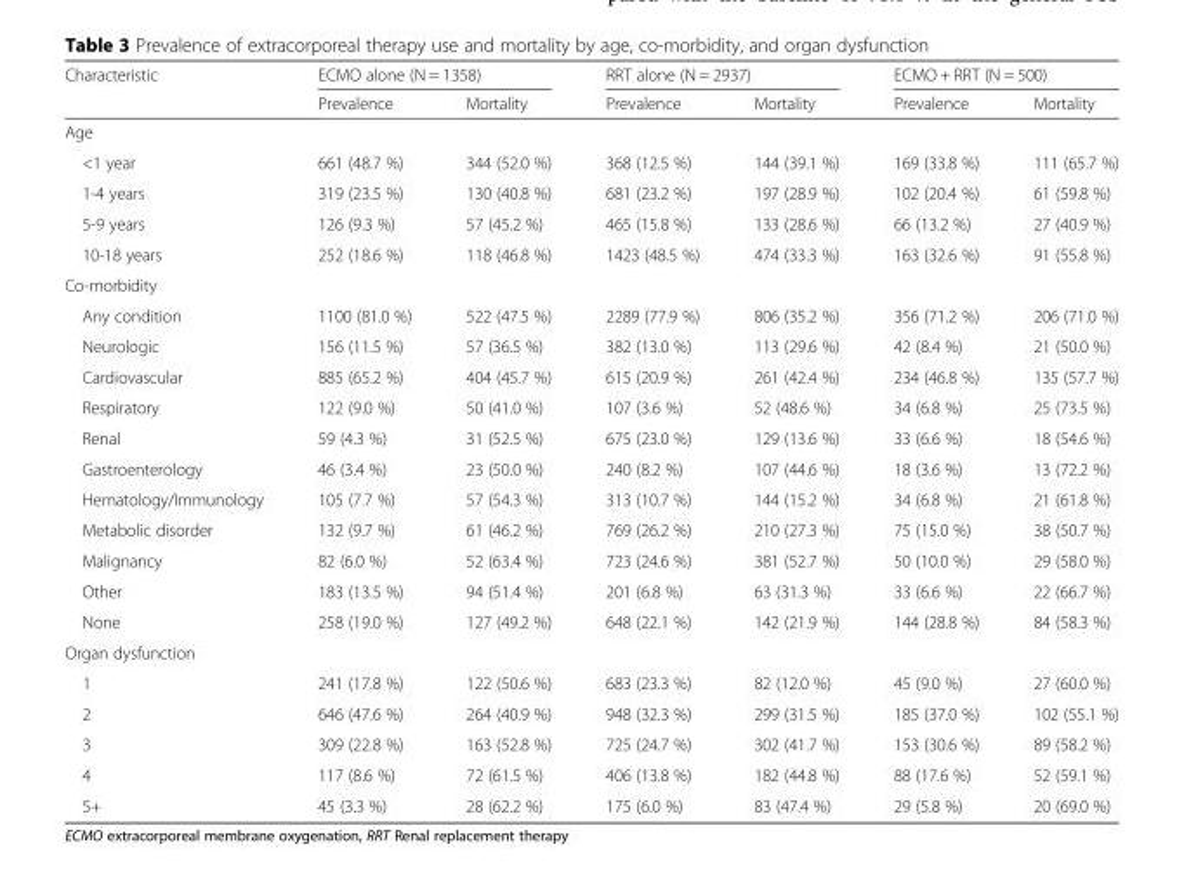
<table><thead><tr><td rowspan="2">Characteristic</td><td colspan="2">ECMO alone (N = 1358)</td><td colspan="2">RRT alone (N = 2937)</td><td colspan="2">ECMO + RRT (N = 500)</td></tr><tr><td>Prevalence</td><td>Mortality</td><td>Prevalence</td><td>Mortality</td><td>Prevalence</td><td>Mortality</td></tr></thead><tbody><tr><td colspan="7">Age</td></tr><tr><td>&lt;1 year</td><td>661 (48.7 %)</td><td>344 (52.0 %)</td><td>368 (12.5 %)</td><td>144 (39.1 %)</td><td>169 (33.8 %)</td><td>111 (65.7 %)</td></tr><tr><td>1-4 years</td><td>319 (23.5 %)</td><td>130 (40.8 %)</td><td>681 (23.2 %)</td><td>197 (28.9 %)</td><td>102 (20.4 %)</td><td>61 (59.8 %)</td></tr><tr><td>5-9 years</td><td>126 (9.3 %)</td><td>57 (45.2 %)</td><td>465 (15.8 %)</td><td>133 (28.6 %)</td><td>66 (13.2 %)</td><td>27 (40.9 %)</td></tr><tr><td>10-18 years</td><td>252 (18.6 %)</td><td>118 (46.8 %)</td><td>1423 (48.5 %)</td><td>474 (33.3 %)</td><td>163 (32.6 %)</td><td>91 (55.8 %)</td></tr><tr><td colspan="7">Co-morbidity</td></tr><tr><td>Any condition</td><td>1100 (81.0 %)</td><td>522 (47.5 %)</td><td>2289 (77.9 %)</td><td>806 (35.2 %)</td><td>356 (71.2 %)</td><td>206 (71.0 %)</td></tr><tr><td>Neurologic</td><td>156 (11.5 %)</td><td>57 (36.5 %)</td><td>382 (13.0 %)</td><td>113 (29.6 %)</td><td>42 (8.4 %)</td><td>21 (50.0 %)</td></tr><tr><td>Cardiovascular</td><td>885 (65.2 %)</td><td>404 (45.7 %)</td><td>615 (20.9 %)</td><td>261 (42.4 %)</td><td>234 (46.8 %)</td><td>135 (57.7 %)</td></tr><tr><td>Respiratory</td><td>122 (9.0 %)</td><td>50 (41.0 %)</td><td>107 (3.6 %)</td><td>52 (48.6 %)</td><td>34 (6.8 %)</td><td>25 (73.5 %)</td></tr><tr><td>Renal</td><td>59 (4.3 %)</td><td>31 (52.5 %)</td><td>675 (23.0 %)</td><td>129 (13.6 %)</td><td>33 (6.6 %)</td><td>18 (54.6 %)</td></tr><tr><td>Gastroenterology</td><td>46 (3.4 %)</td><td>23 (50.0 %)</td><td>240 (8.2 %)</td><td>107 (44.6 %)</td><td>18 (3.6 %)</td><td>13 (72.2 %)</td></tr><tr><td>Hematology/Immunology</td><td>105 (7.7 %)</td><td>57 (54.3 %)</td><td>313 (10.7 %)</td><td>144 (15.2 %)</td><td>34 (6.8 %)</td><td>21 (61.8 %)</td></tr><tr><td>Metabolic disorder</td><td>132 (9.7 %)</td><td>61 (46.2 %)</td><td>769 (26.2 %)</td><td>210 (27.3 %)</td><td>75 (15.0 %)</td><td>38 (50.7 %)</td></tr><tr><td>Malignancy</td><td>82 (6.0 %)</td><td>52 (63.4 %)</td><td>723 (24.6 %)</td><td>381 (52.7 %)</td><td>50 (10.0 %)</td><td>29 (58.0 %)</td></tr><tr><td>Other</td><td>183 (13.5 %)</td><td>94 (51.4 %)</td><td>201 (6.8 %)</td><td>63 (31.3 %)</td><td>33 (6.6 %)</td><td>22 (66.7 %)</td></tr><tr><td>None</td><td>258 (19.0 %)</td><td>127 (49.2 %)</td><td>648 (22.1 %)</td><td>142 (21.9 %)</td><td>144 (28.8 %)</td><td>84 (58.3 %)</td></tr><tr><td colspan="7">Organ dysfunction</td></tr><tr><td>1</td><td>241 (17.8 %)</td><td>122 (50.6 %)</td><td>683 (23.3 %)</td><td>82 (12.0 %)</td><td>45 (9.0 %)</td><td>27 (60.0 %)</td></tr><tr><td>2</td><td>646 (47.6 %)</td><td>264 (40.9 %)</td><td>948 (32.3 %)</td><td>299 (31.5 %)</td><td>185 (37.0 %)</td><td>102 (55.1 %)</td></tr><tr><td>3</td><td>309 (22.8 %)</td><td>163 (52.8 %)</td><td>725 (24.7 %)</td><td>302 (41.7 %)</td><td>153 (30.6 %)</td><td>89 (58.2 %)</td></tr><tr><td>4</td><td>117 (8.6 %)</td><td>72 (61.5 %)</td><td>406 (13.8 %)</td><td>182 (44.8 %)</td><td>88 (17.6 %)</td><td>52 (59.1 %)</td></tr><tr><td>5+</td><td>45 (3.3 %)</td><td>28 (62.2 %)</td><td>175 (6.0 %)</td><td>83 (47.4 %)</td><td>29 (5.8 %)</td><td>20 (69.0 %)</td></tr></tbody></table>